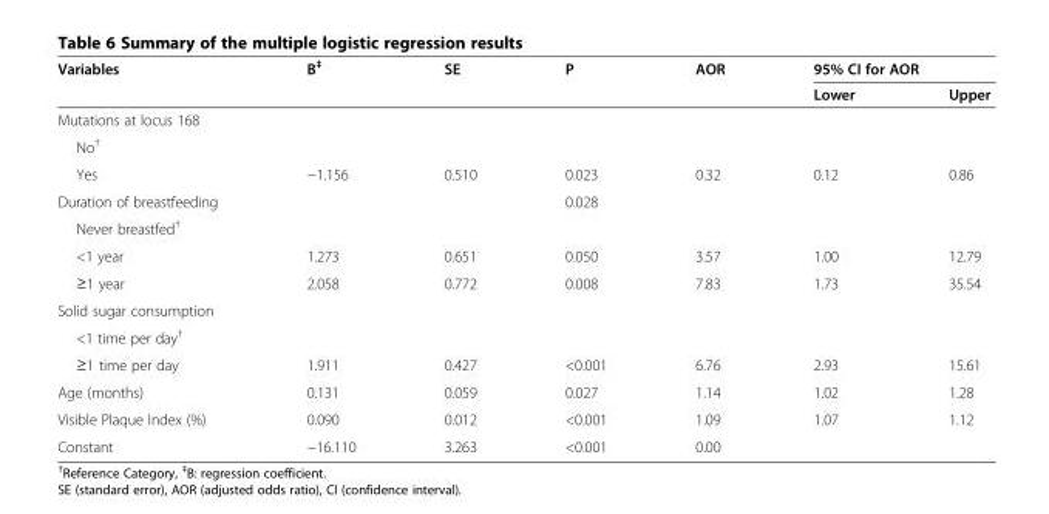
<table><thead><tr><td rowspan="2">Variables</td><td rowspan="2">B<sup>‡</sup></td><td rowspan="2">SE</td><td rowspan="2">P</td><td rowspan="2">AOR</td><td colspan="2">95% CI for AOR</td></tr><tr><td>Lower</td><td>Upper</td></tr></thead><tbody><tr><td colspan="7">Mutations at locus 168</td></tr><tr><td colspan="7">No<sup>†</sup></td></tr><tr><td>Yes</td><td>−1.156</td><td>0.510</td><td>0.023</td><td>0.32</td><td>0.12</td><td>0.86</td></tr><tr><td>Duration of breastfeeding</td><td></td><td></td><td>0.028</td><td></td><td></td><td></td></tr><tr><td colspan="7">Never breastfed<sup>†</sup></td></tr><tr><td>&lt;1 year</td><td>1.273</td><td>0.651</td><td>0.050</td><td>3.57</td><td>1.00</td><td>12.79</td></tr><tr><td>≥1 year</td><td>2.058</td><td>0.772</td><td>0.008</td><td>7.83</td><td>1.73</td><td>35.54</td></tr><tr><td colspan="7">Solid sugar consumption</td></tr><tr><td colspan="7">&lt;1 time per day<sup>†</sup></td></tr><tr><td>≥1 time per day</td><td>1.911</td><td>0.427</td><td>&lt;0.001</td><td>6.76</td><td>2.93</td><td>15.61</td></tr><tr><td>Age (months)</td><td>0.131</td><td>0.059</td><td>0.027</td><td>1.14</td><td>1.02</td><td>1.28</td></tr><tr><td>Visible Plaque Index (%)</td><td>0.090</td><td>0.012</td><td>&lt;0.001</td><td>1.09</td><td>1.07</td><td>1.12</td></tr><tr><td>Constant</td><td>−16.110</td><td>3.263</td><td>&lt;0.001</td><td>0.00</td><td></td><td></td></tr></tbody></table>